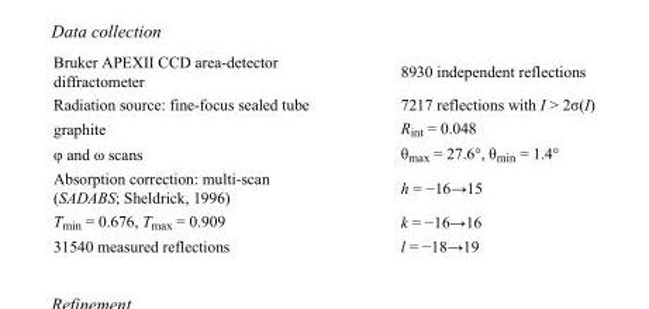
<table><tbody><tr><td>Bruker APEXII CCD area-detector diffractometer</td><td>8930 independent reflections</td></tr><tr><td>Radiation source: fine-focus sealed tube</td><td>7217 reflections with I &gt; 2σ(I)</td></tr><tr><td>graphite</td><td>R<sub>int</sub> = 0.048</td></tr><tr><td>φ and ω scans</td><td>θ<sub>max</sub> = 27.6°, θ<sub>min</sub> = 1.4°</td></tr><tr><td>Absorption correction: multi-scan (SADABS; Sheldrick, 1996)</td><td>h = −16→15</td></tr><tr><td>T<sub>min</sub> = 0.676, T<sub>max</sub> = 0.909</td><td>k = −16→16</td></tr><tr><td>31540 measured reflections</td><td>l = −18→19</td></tr></tbody></table>